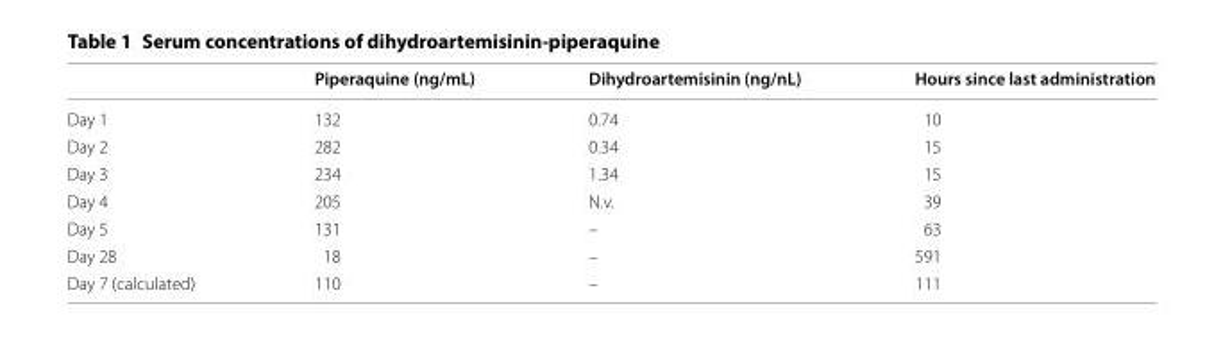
<table><thead><tr><td></td><td>Piperaquine (ng/mL)</td><td>Dihydroartemisinin (ng/nL)</td><td>Hours since last administration</td></tr></thead><tbody><tr><td>Day 1</td><td>132</td><td>0.74</td><td>10</td></tr><tr><td>Day 2</td><td>282</td><td>0.34</td><td>15</td></tr><tr><td>Day 3</td><td>234</td><td>1.34</td><td>15</td></tr><tr><td>Day 4</td><td>205</td><td>N.v.</td><td>39</td></tr><tr><td>Day 5</td><td>131</td><td>–</td><td>63</td></tr><tr><td>Day 28</td><td>18</td><td>–</td><td>591</td></tr><tr><td>Day 7 (calculated)</td><td>110</td><td>–</td><td>111</td></tr></tbody></table>